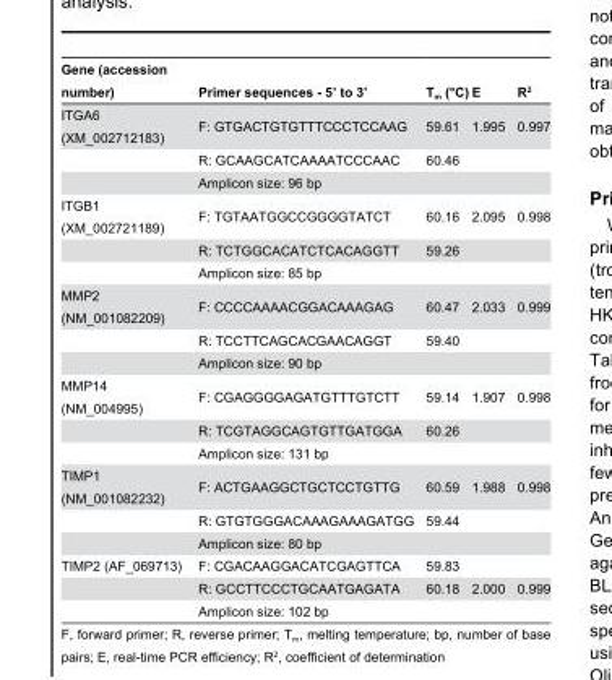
<table><thead><tr><td>Gene (accession number)</td><td>Primer sequences - 5’ to 3’</td><td>T<sub>m</sub> (°C)</td><td>E</td><td>R<sup>2</sup></td></tr></thead><tbody><tr><td rowspan="3">ITGA6 (XM_002712183)</td><td>F: GTGACTGTGTTTCCCTCCAAG</td><td>59.61</td><td>1.995</td><td>0.997</td></tr><tr><td>R: GCAAGCATCAAAATCCCAAC</td><td>60.46</td><td></td><td></td></tr><tr><td>Amplicon size: 96 bp</td><td></td><td></td><td></td></tr><tr><td rowspan="3">ITGB1 (XM_002721189)</td><td>F: TGTAATGGCCGGGGTATCT</td><td>60.16</td><td>2.095</td><td>0.998</td></tr><tr><td>R: TCTGGCACATCTCACAGGTT</td><td>59.26</td><td></td><td></td></tr><tr><td>Amplicon size: 85 bp</td><td></td><td></td><td></td></tr><tr><td rowspan="3">MMP2 (NM_001082209)</td><td>F: CCCCAAAACGGACAAAGAG</td><td>60.47</td><td>2.033</td><td>0.999</td></tr><tr><td>R: TCCTTCAGCACGAACAGGT</td><td>59.40</td><td></td><td></td></tr><tr><td>Amplicon size: 90 bp</td><td></td><td></td><td></td></tr><tr><td rowspan="3">MMP14 (NM_004995)</td><td>F: CGAGGGGAGATGTTTGTCTT</td><td>59.14</td><td>1.907</td><td>0.998</td></tr><tr><td>R: TCGTAGGCAGTGTTGATGGA</td><td>60.26</td><td></td><td></td></tr><tr><td>Amplicon size: 131 bp</td><td></td><td></td><td></td></tr><tr><td rowspan="3">TIMP1 (NM_001082232)</td><td>F: ACTGAAGGCTGCTCCTGTTG</td><td>60.59</td><td>1.988</td><td>0.998</td></tr><tr><td>R: GTGTGGGACAAAGAAAGATGG</td><td>59.44</td><td></td><td></td></tr><tr><td>Amplicon size: 80 bp</td><td></td><td></td><td></td></tr><tr><td rowspan="3">TIMP2 (AF_069713)</td><td>F: CGACAAGGACATCGAGTTCA</td><td>59.83</td><td></td><td></td></tr><tr><td>R: GCCTTCCCTGCAATGAGATA</td><td>60.18</td><td>2.000</td><td>0.999</td></tr><tr><td>Amplicon size: 102 bp</td><td></td><td></td><td></td></tr></tbody></table>